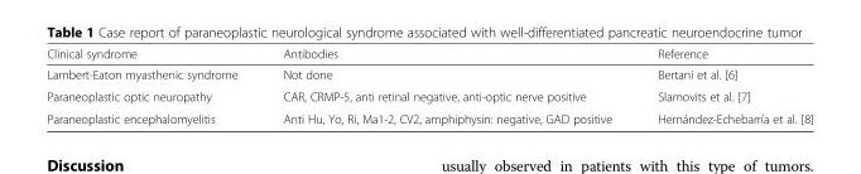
<table><thead><tr><td>Clinical syndrome</td><td>Antibodies</td><td>Reference</td></tr></thead><tbody><tr><td>Lambert-Eaton myasthenic syndrome</td><td>Not done</td><td>Bertani et al. [6]</td></tr><tr><td>Paraneoplastic optic neuropathy</td><td>CAR, CRMP-5, anti retinal negative, anti-optic nerve positive</td><td>Slamovits et al. [7]</td></tr><tr><td>Paraneoplastic encephalomyelitis</td><td>Anti Hu, Yo, Ri, Ma1-2, CV2, amphiphysin: negative, GAD positive</td><td>Hernández-Echebarría et al. [8]</td></tr></tbody></table>